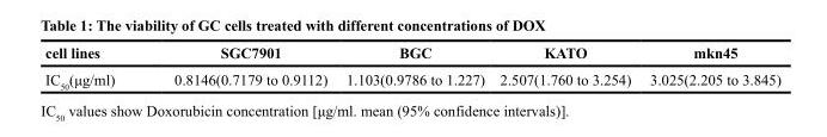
<table><thead><tr><td>cell lines</td><td>SGC7901</td><td>BGC</td><td>KATO</td><td>mkn45</td></tr></thead><tbody><tr><td>IC<sub>50</sub>(μg/ml)</td><td>0.8146(0.7179 to 0.9112)</td><td>1.103(0.9786 to 1.227)</td><td>2.507(1.760 to 3.254)</td><td>3.025(2.205 to 3.845)</td></tr></tbody></table>